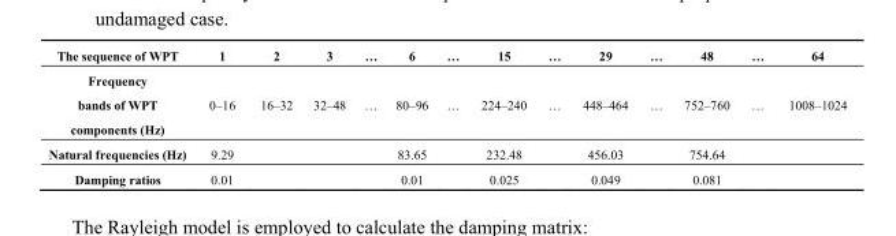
<table><thead><tr><td>The sequence of WPT</td><td>1</td><td>2</td><td>3</td><td>…</td><td>6</td><td>…</td><td>15</td><td>…</td><td>29</td><td>…</td><td>48</td><td>…</td><td>64</td></tr></thead><tbody><tr><td>Frequency bands of WPT components (Hz)</td><td>0–16</td><td>16–32</td><td>32–48</td><td>…</td><td>80–96</td><td>…</td><td>224–240</td><td>…</td><td>448–464</td><td>…</td><td>752–760</td><td>…</td><td>1008–1024</td></tr><tr><td>Natural frequencies (Hz)</td><td>9.29</td><td></td><td></td><td></td><td>83.65</td><td></td><td>232.48</td><td></td><td>456.03</td><td></td><td>754.64</td><td></td><td></td></tr><tr><td>Damping ratios</td><td>0.01</td><td></td><td></td><td></td><td>0.01</td><td></td><td>0.025</td><td></td><td>0.049</td><td></td><td>0.081</td><td></td><td></td></tr></tbody></table>